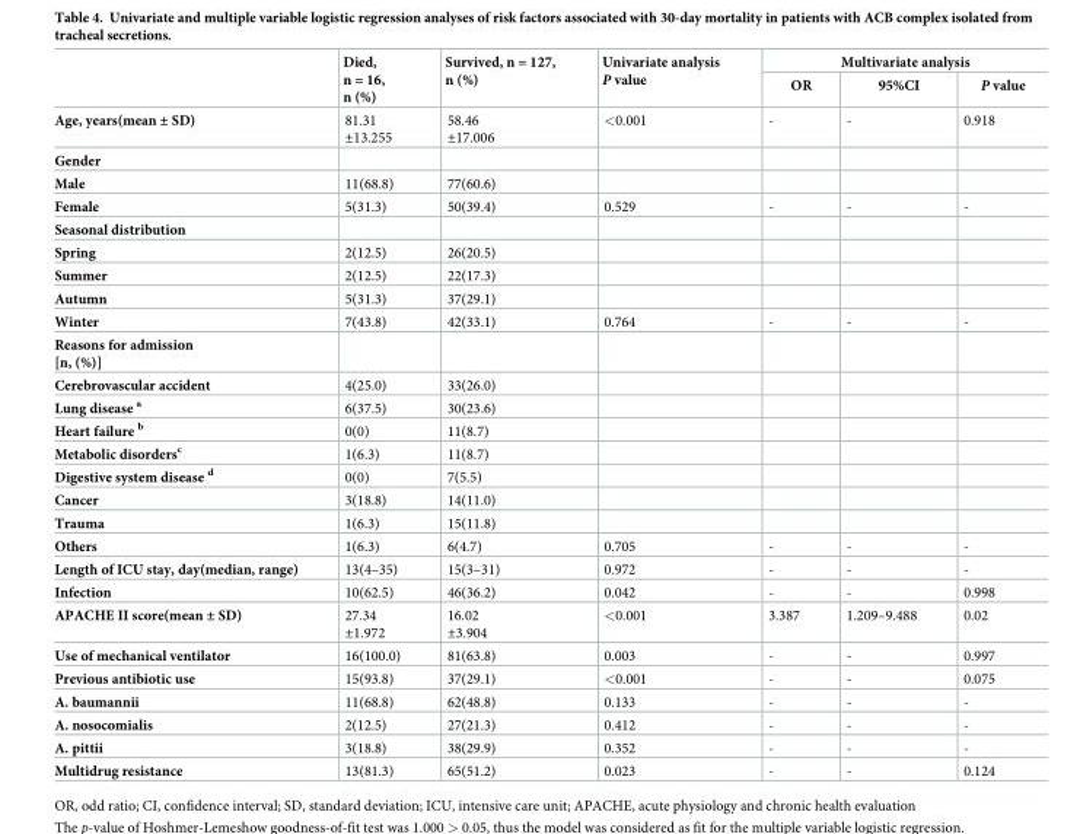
<table><thead><tr><td rowspan="2"></td><td rowspan="2">Died, n = 16, n (%)</td><td rowspan="2">Survived, n = 127, n (%)</td><td rowspan="2">Univariate analysis P value</td><td colspan="3">Multivariate analysis</td></tr><tr><td>OR</td><td>95%CI</td><td>P value</td></tr></thead><tbody><tr><td>Age, years(mean ± SD)</td><td>81.31 ±13.255</td><td>58.46 ±17.006</td><td>&lt;0.001</td><td>-</td><td>-</td><td>0.918</td></tr><tr><td colspan="7">Gender</td></tr><tr><td>Male</td><td>11(68.8)</td><td>77(60.6)</td><td></td><td></td><td></td><td></td></tr><tr><td>Female</td><td>5(31.3)</td><td>50(39.4)</td><td>0.529</td><td>-</td><td>-</td><td>-</td></tr><tr><td colspan="7">Seasonal distribution</td></tr><tr><td>Spring</td><td>2(12.5)</td><td>26(20.5)</td><td></td><td></td><td></td><td></td></tr><tr><td>Summer</td><td>2(12.5)</td><td>22(17.3)</td><td></td><td></td><td></td><td></td></tr><tr><td>Autumn</td><td>5(31.3)</td><td>37(29.1)</td><td></td><td></td><td></td><td></td></tr><tr><td>Winter</td><td>7(43.8)</td><td>42(33.1)</td><td>0.764</td><td>-</td><td>-</td><td>-</td></tr><tr><td colspan="7">Reasons for admission [n, (%)]</td></tr><tr><td>Cerebrovascular accident</td><td>4(25.0)</td><td>33(26.0)</td><td></td><td></td><td></td><td></td></tr><tr><td>Lung disease <sup>a</sup></td><td>6(37.5)</td><td>30(23.6)</td><td></td><td></td><td></td><td></td></tr><tr><td>Heart failure <sup>b</sup></td><td>0(0)</td><td>11(8.7)</td><td></td><td></td><td></td><td></td></tr><tr><td>Metabolic disorders<sup>c</sup></td><td>1(6.3)</td><td>11(8.7)</td><td></td><td></td><td></td><td></td></tr><tr><td>Digestive system disease <sup>d</sup></td><td>0(0)</td><td>7(5.5)</td><td></td><td></td><td></td><td></td></tr><tr><td>Cancer</td><td>3(18.8)</td><td>14(11.0)</td><td></td><td></td><td></td><td></td></tr><tr><td>Trauma</td><td>1(6.3)</td><td>15(11.8)</td><td></td><td></td><td></td><td></td></tr><tr><td>Others</td><td>1(6.3)</td><td>6(4.7)</td><td>0.705</td><td>-</td><td>-</td><td>-</td></tr><tr><td>Length of ICU stay, day(median, range)</td><td>13(4–35)</td><td>15(3–31)</td><td>0.972</td><td>-</td><td>-</td><td>-</td></tr><tr><td>Infection</td><td>10(62.5)</td><td>46(36.2)</td><td>0.042</td><td>-</td><td>-</td><td>0.998</td></tr><tr><td>APACHE II score(mean ± SD)</td><td>27.34 ±1.972</td><td>16.02 ±3.904</td><td>&lt;0.001</td><td>3.387</td><td>1.209–9.488</td><td>0.02</td></tr><tr><td>Use of mechanical ventilator</td><td>16(100.0)</td><td>81(63.8)</td><td>0.003</td><td>-</td><td>-</td><td>0.997</td></tr><tr><td>Previous antibiotic use</td><td>15(93.8)</td><td>37(29.1)</td><td>&lt;0.001</td><td>-</td><td>-</td><td>0.075</td></tr><tr><td>A. baumannii</td><td>11(68.8)</td><td>62(48.8)</td><td>0.133</td><td>-</td><td>-</td><td>-</td></tr><tr><td>A. nosocomialis</td><td>2(12.5)</td><td>27(21.3)</td><td>0.412</td><td>-</td><td>-</td><td>-</td></tr><tr><td>A. pittii</td><td>3(18.8)</td><td>38(29.9)</td><td>0.352</td><td>-</td><td>-</td><td>-</td></tr><tr><td>Multidrug resistance</td><td>13(81.3)</td><td>65(51.2)</td><td>0.023</td><td>-</td><td>-</td><td>0.124</td></tr></tbody></table>